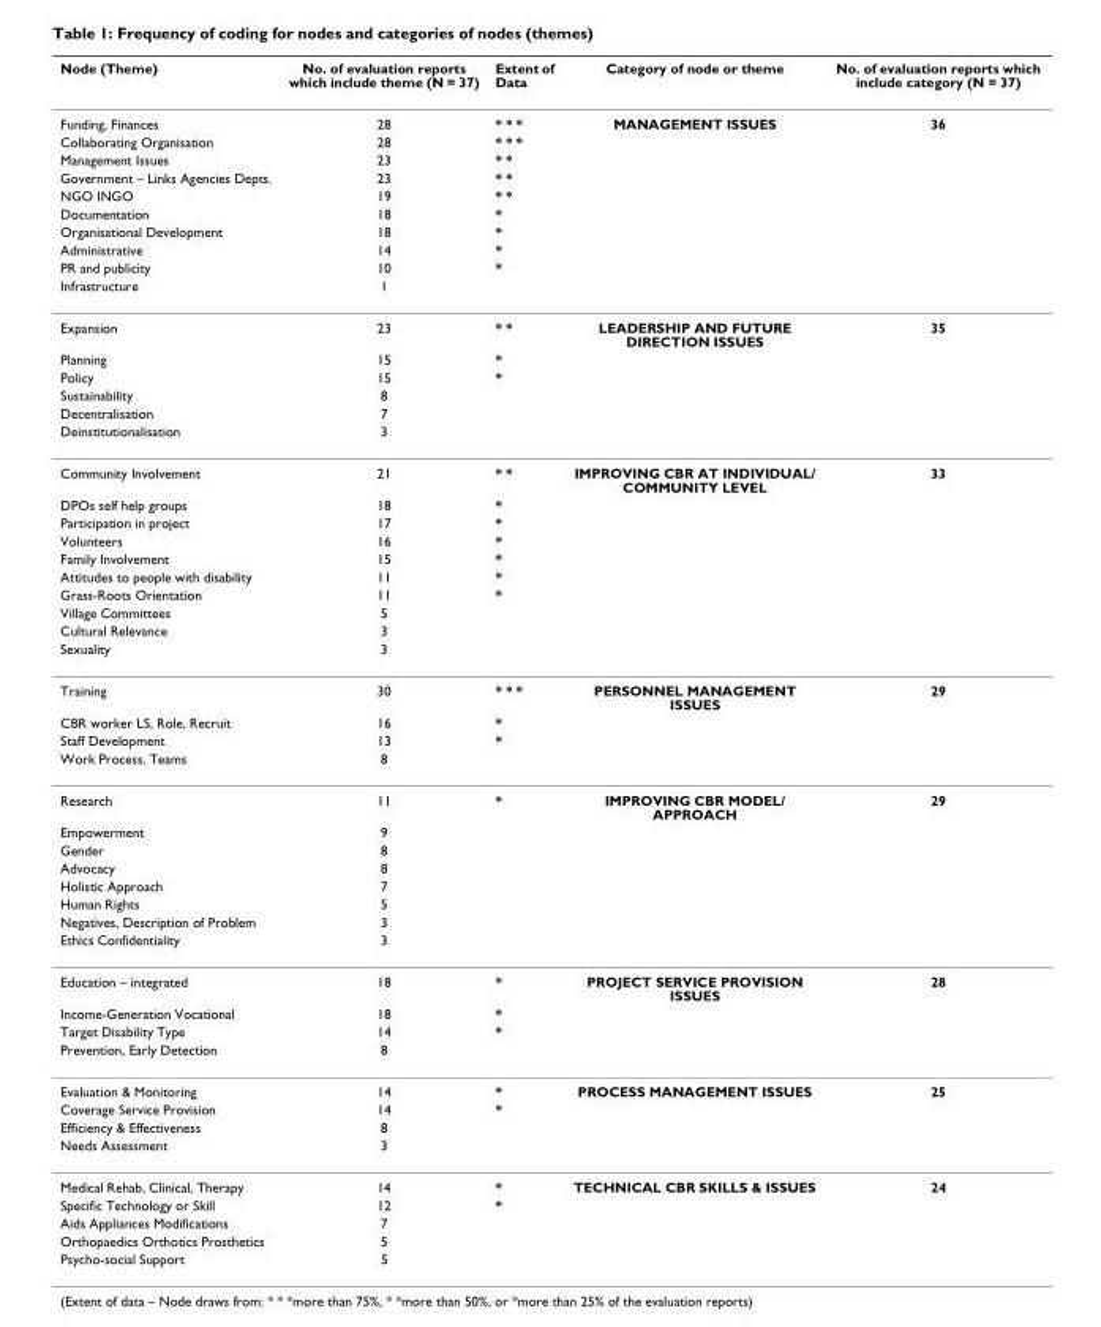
<table><thead><tr><td>Node (Theme)</td><td>No. of evaluation reports which include theme (N = 37)</td><td>Extent of Data</td><td>Category of node or theme</td><td>No. of evaluation reports which include category (N = 37)</td></tr></thead><tbody><tr><td>Funding, Finances</td><td>28</td><td>* * *</td><td>MANAGEMENT ISSUES</td><td>36</td></tr><tr><td>Collaborating Organisation</td><td>28</td><td>* * *</td><td></td><td></td></tr><tr><td>Management Issues</td><td>23</td><td>* *</td><td></td><td></td></tr><tr><td>Government – Links Agencies Depts.</td><td>23</td><td>* *</td><td></td><td></td></tr><tr><td>NGO INGO</td><td>19</td><td>* *</td><td></td><td></td></tr><tr><td>Documentation</td><td>18</td><td>*</td><td></td><td></td></tr><tr><td>Organisational Development</td><td>18</td><td>*</td><td></td><td></td></tr><tr><td>Administrative</td><td>14</td><td>*</td><td></td><td></td></tr><tr><td>PR and publicity</td><td>10</td><td>*</td><td></td><td></td></tr><tr><td>Infrastructure</td><td>1</td><td></td><td></td><td></td></tr><tr><td>Expansion</td><td>23</td><td>* *</td><td>LEADERSHIP AND FUTURE DIRECTION ISSUES</td><td>35</td></tr><tr><td>Planning</td><td>15</td><td>*</td><td></td><td></td></tr><tr><td>Policy</td><td>15</td><td>*</td><td></td><td></td></tr><tr><td>Sustainability</td><td>8</td><td></td><td></td><td></td></tr><tr><td>Decentralisation</td><td>7</td><td></td><td></td><td></td></tr><tr><td>Deinstitutionalisation</td><td>3</td><td></td><td></td><td></td></tr><tr><td>Community Involvement</td><td>21</td><td>* *</td><td>IMPROVING CBR AT INDIVIDUAL/ COMMUNITY LEVEL</td><td>33</td></tr><tr><td>DPOs self help groups</td><td>18</td><td>*</td><td></td><td></td></tr><tr><td>Participation in project</td><td>17</td><td>*</td><td></td><td></td></tr><tr><td>Volunteers</td><td>16</td><td>*</td><td></td><td></td></tr><tr><td>Family Involvement</td><td>15</td><td>*</td><td></td><td></td></tr><tr><td>Attitudes to people with disability</td><td>11</td><td>*</td><td></td><td></td></tr><tr><td>Grass-Roots Orientation</td><td>11</td><td>*</td><td></td><td></td></tr><tr><td>Village Committees</td><td>5</td><td></td><td></td><td></td></tr><tr><td>Cultural Relevance</td><td>3</td><td></td><td></td><td></td></tr><tr><td>Sexuality</td><td>3</td><td></td><td></td><td></td></tr><tr><td>Training</td><td>30</td><td>* * *</td><td>PERSONNEL MANAGEMENT ISSUES</td><td>29</td></tr><tr><td>CBR worker LS, Role, Recruit</td><td>16</td><td>*</td><td></td><td></td></tr><tr><td>Staff Development</td><td>13</td><td>*</td><td></td><td></td></tr><tr><td>Work Process, Teams</td><td>8</td><td></td><td></td><td></td></tr><tr><td>Research</td><td>11</td><td>*</td><td>IMPROVING CBR MODEL/ APPROACH</td><td>29</td></tr><tr><td>Empowerment</td><td>9</td><td></td><td></td><td></td></tr><tr><td>Gender</td><td>8</td><td></td><td></td><td></td></tr><tr><td>Advocacy</td><td>8</td><td></td><td></td><td></td></tr><tr><td>Holistic Approach</td><td>7</td><td></td><td></td><td></td></tr><tr><td>Human Rights</td><td>5</td><td></td><td></td><td></td></tr><tr><td>Negatives, Description of Problem</td><td>3</td><td></td><td></td><td></td></tr><tr><td>Ethics Confidentiality</td><td>3</td><td></td><td></td><td></td></tr><tr><td>Education – integrated</td><td>18</td><td>*</td><td>PROJECT SERVICE PROVISION ISSUES</td><td>28</td></tr><tr><td>Income-Generation Vocational</td><td>18</td><td>*</td><td></td><td></td></tr><tr><td>Target Disability Type</td><td>14</td><td>*</td><td></td><td></td></tr><tr><td>Prevention, Early Detection</td><td>8</td><td></td><td></td><td></td></tr><tr><td>Evaluation &amp; Monitoring</td><td>14</td><td>*</td><td>PROCESS MANAGEMENT ISSUES</td><td>25</td></tr><tr><td>Coverage Service Provision</td><td>14</td><td>*</td><td></td><td></td></tr><tr><td>Efficiency &amp; Effectiveness</td><td>8</td><td></td><td></td><td></td></tr><tr><td>Needs Assessment</td><td>3</td><td></td><td></td><td></td></tr><tr><td>Medical Rehab, Clinical, Therapy</td><td>14</td><td>*</td><td>TECHNICAL CBR SKILLS &amp; ISSUES</td><td>24</td></tr><tr><td>Specific Technology or Skill</td><td>12</td><td>*</td><td></td><td></td></tr><tr><td>Aids Appliances Modifications</td><td>7</td><td></td><td></td><td></td></tr><tr><td>Orthopaedics Orthotics Prosthetics</td><td>5</td><td></td><td></td><td></td></tr><tr><td>Psycho-social Support</td><td>5</td><td></td><td></td><td></td></tr></tbody></table>